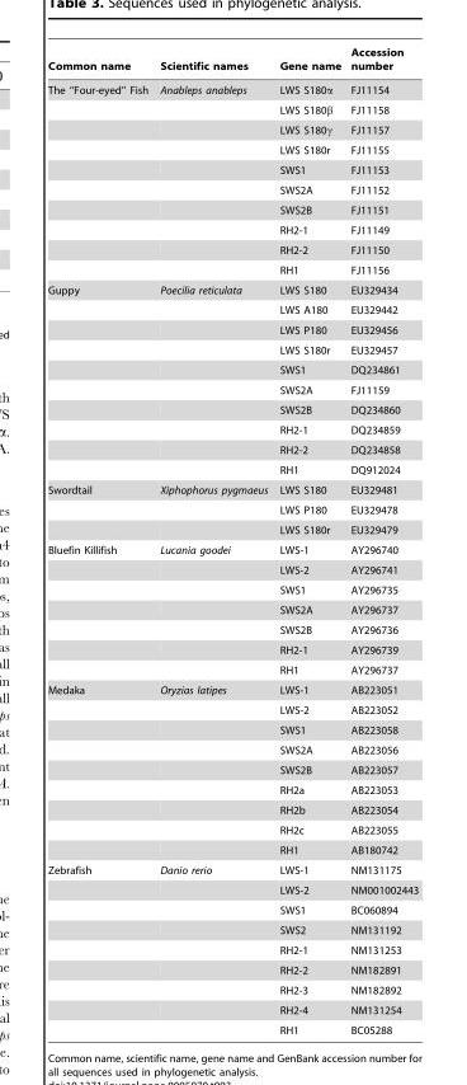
<table><thead><tr><td>Common name</td><td>Scientific names</td><td>Gene name</td><td>Accession number</td></tr></thead><tbody><tr><td rowspan="10">The ‘‘Four-eyed’’ Fish</td><td>Anableps anableps</td><td>LWS S180α</td><td>FJ11154</td></tr><tr><td></td><td>LWS S180β</td><td>FJ11158</td></tr><tr><td></td><td>LWS S180γ</td><td>FJ11157</td></tr><tr><td></td><td>LWS S180r</td><td>FJ11155</td></tr><tr><td></td><td>SWS1</td><td>FJ11153</td></tr><tr><td></td><td>SWS2A</td><td>FJ11152</td></tr><tr><td></td><td>SWS2B</td><td>FJ11151</td></tr><tr><td></td><td>RH2-1</td><td>FJ11149</td></tr><tr><td></td><td>RH2-2</td><td>FJ11150</td></tr><tr><td></td><td>RH1</td><td>FJ11156</td></tr><tr><td rowspan="10">Guppy</td><td>Poecilia reticulata</td><td>LWS S180</td><td>EU329434</td></tr><tr><td></td><td>LWS A180</td><td>EU329442</td></tr><tr><td></td><td>LWS P180</td><td>EU329456</td></tr><tr><td></td><td>LWS S180r</td><td>EU329457</td></tr><tr><td></td><td>SWS1</td><td>DQ234861</td></tr><tr><td></td><td>SWS2A</td><td>FJ11159</td></tr><tr><td></td><td>SWS2B</td><td>DQ234860</td></tr><tr><td></td><td>RH2-1</td><td>DQ234859</td></tr><tr><td></td><td>RH2-2</td><td>DQ234858</td></tr><tr><td></td><td>RH1</td><td>DQ912024</td></tr><tr><td rowspan="3">Swordtail</td><td>Xiphophorus pygmaeus</td><td>LWS S180</td><td>EU329481</td></tr><tr><td></td><td>LWS P180</td><td>EU329478</td></tr><tr><td></td><td>LWS S180r</td><td>EU329479</td></tr><tr><td rowspan="7">Bluefin Killifish</td><td>Lucania goodei</td><td>LWS-1</td><td>AY296740</td></tr><tr><td></td><td>LWS-2</td><td>AY296741</td></tr><tr><td></td><td>SWS1</td><td>AY296735</td></tr><tr><td></td><td>SWS2A</td><td>AY296737</td></tr><tr><td></td><td>SWS2B</td><td>AY296736</td></tr><tr><td></td><td>RH2-1</td><td>AY296739</td></tr><tr><td></td><td>RH1</td><td>AY296737</td></tr><tr><td rowspan="9">Medaka</td><td>Oryzias latipes</td><td>LWS-1</td><td>AB223051</td></tr><tr><td></td><td>LWS-2</td><td>AB223052</td></tr><tr><td></td><td>SWS1</td><td>AB223058</td></tr><tr><td></td><td>SWS2A</td><td>AB223056</td></tr><tr><td></td><td>SWS2B</td><td>AB223057</td></tr><tr><td></td><td>RH2a</td><td>AB223053</td></tr><tr><td></td><td>RH2b</td><td>AB223054</td></tr><tr><td></td><td>RH2c</td><td>AB223055</td></tr><tr><td></td><td>RH1</td><td>AB180742</td></tr><tr><td rowspan="9">Zebrafish</td><td>Danio rerio</td><td>LWS-1</td><td>NM131175</td></tr><tr><td></td><td>LWS-2</td><td>NM001002443</td></tr><tr><td></td><td>SWS1</td><td>BC060894</td></tr><tr><td></td><td>SWS2</td><td>NM131192</td></tr><tr><td></td><td>RH2-1</td><td>NM131253</td></tr><tr><td></td><td>RH2-2</td><td>NM182891</td></tr><tr><td></td><td>RH2-3</td><td>NM182892</td></tr><tr><td></td><td>RH2-4</td><td>NM131254</td></tr><tr><td></td><td>RH1</td><td>BC05288</td></tr></tbody></table>